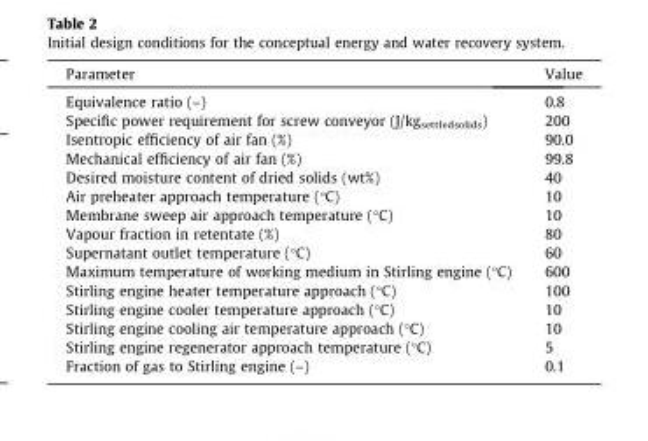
<table><thead><tr><td>Parameter</td><td>Value</td></tr></thead><tbody><tr><td>Equivalence ratio (–)</td><td>0.8</td></tr><tr><td>Specific power requirement for screw conveyor (J/kg<sub>settledsolids</sub>)</td><td>200</td></tr><tr><td>Isentropic efficiency of air fan (%)</td><td>90.0</td></tr><tr><td>Mechanical efficiency of air fan (%)</td><td>99.8</td></tr><tr><td>Desired moisture content of dried solids (wt%)</td><td>40</td></tr><tr><td>Air preheater approach temperature (°C)</td><td>10</td></tr><tr><td>Membrane sweep air approach temperature (°C)</td><td>10</td></tr><tr><td>Vapour fraction in retentate (%)</td><td>80</td></tr><tr><td>Supernatant outlet temperature (°C)</td><td>60</td></tr><tr><td>Maximum temperature of working medium in Stirling engine (°C)</td><td>600</td></tr><tr><td>Stirling engine heater temperature approach (°C)</td><td>100</td></tr><tr><td>Stirling engine cooler temperature approach (°C)</td><td>10</td></tr><tr><td>Stirling engine cooling air temperature approach (°C)</td><td>10</td></tr><tr><td>Stirling engine regenerator approach temperature (°C)</td><td>5</td></tr><tr><td>Fraction of gas to Stirling engine (–)</td><td>0.1</td></tr></tbody></table>